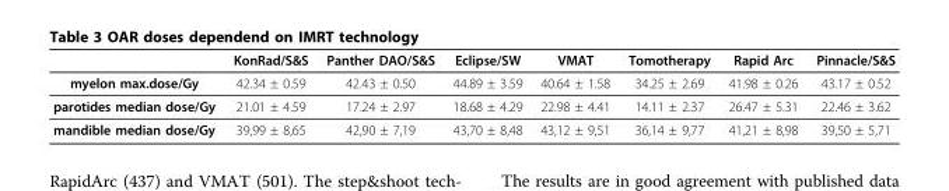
<table><thead><tr><td></td><td>KonRad/S&amp;S</td><td>Panther DAO/S&amp;S</td><td>Eclipse/SW</td><td>VMAT</td><td>Tomotherapy</td><td>Rapid Arc</td><td>Pinnacle/S&amp;S</td></tr></thead><tbody><tr><td>myelon max.dose/Gy</td><td>42.34 ± 0.59</td><td>42.43 ± 0.50</td><td>44.89 ± 3.59</td><td>40.64 ± 1.58</td><td>34.25 ± 2.69</td><td>41.98 ± 0.26</td><td>43.17 ± 0.52</td></tr><tr><td>parotides median dose/Gy</td><td>21.01 ± 4.59</td><td>17.24 ± 2.97</td><td>18.68 ± 4.29</td><td>22.98 ± 4.41</td><td>14.11 ± 2.37</td><td>26.47 ± 5.31</td><td>22.46 ± 3.62</td></tr><tr><td>mandible median dose/Gy</td><td>39,99 ± 8,65</td><td>42,90 ± 7,19</td><td>43,70 ± 8,48</td><td>43,12 ± 9,51</td><td>36,14 ± 9,77</td><td>41,21 ± 8,98</td><td>39,50 ± 5,71</td></tr></tbody></table>